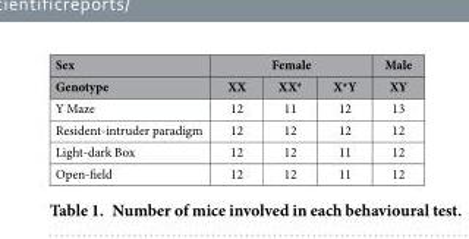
<table><thead><tr><td rowspan="2">Sex Genotype</td><td colspan="3">Female</td><td rowspan="2">Male XY</td></tr><tr><td>XX</td><td>XX*</td><td>X*Y</td></tr></thead><tbody><tr><td>Y Maze</td><td>12</td><td>11</td><td>12</td><td>13</td></tr><tr><td>Resident-intruder paradigm</td><td>12</td><td>12</td><td>12</td><td>12</td></tr><tr><td>Light-dark Box</td><td>12</td><td>12</td><td>11</td><td>12</td></tr><tr><td>Open-field</td><td>12</td><td>12</td><td>11</td><td>12</td></tr></tbody></table>